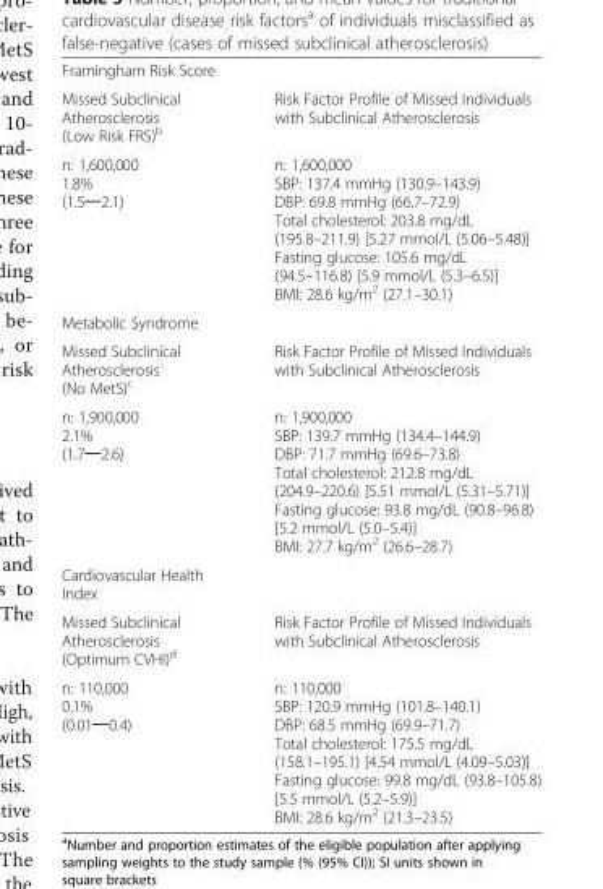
<table><tbody><tr><td colspan="2">Framingham Risk Score</td></tr><tr><td>Missed Subclinical Atherosclerosis (Low Risk FRS)<sup>b</sup></td><td>Risk Factor Profile of Missed Individuals with Subclinical Atherosclerosis</td></tr><tr><td>n: 1,600,000 1.8% (1.5─2.1)</td><td>n: 1,600,000 SBP: 137.4 mmHg (130.9–143.9) DBP: 69.8 mmHg (66.7–72.9) Total cholesterol: 203.8 mg/dL (195.8–211.9) [5.27 mmol/L (5.06–5.48)] Fasting glucose: 105.6 mg/dL (94.5–116.8) [5.9 mmol/L (5.3–6.5)] BMI: 28.6 kg/m<sup>2</sup> (27.1–30.1)</td></tr><tr><td colspan="2">Metabolic Syndrome</td></tr><tr><td>Missed Subclinical Atherosclerosis (No MetS)<sup>c</sup></td><td>Risk Factor Profile of Missed Individuals with Subclinical Atherosclerosis</td></tr><tr><td>n: 1,900,000 2.1% (1.7─2.6)</td><td>n: 1,900,000 SBP: 139.7 mmHg (134.4–144.9) DBP: 71.7 mmHg (69.6–73.8) Total cholesterol: 212.8 mg/dL (204.9–220.6) [5.51 mmol/L (5.31–5.71)] Fasting glucose: 93.8 mg/dL (90.8–96.8) [5.2 mmol/L (5.0–5.4)] BMI: 27.7 kg/m<sup>2</sup> (26.6–28.7)</td></tr><tr><td colspan="2">Cardiovascular Health Index</td></tr><tr><td>Missed Subclinical Atherosclerosis (Optimum CVHI)<sup>d</sup></td><td>Risk Factor Profile of Missed Individuals with Subclinical Atherosclerosis</td></tr><tr><td>n: 110,000 0.1% (0.01─0.4)</td><td>n: 110,000 SBP: 120.9 mmHg (101.8–140.1) DBP: 68.5 mmHg (69.9–71.7) Total cholesterol: 175.5 mg/dL (158.1–195.1) [4.54 mmol/L (4.09–5.03)] Fasting glucose: 99.8 mg/dL (93.8–105.8) [5.5 mmol/L (5.2–5.9)] BMI: 28.6 kg/m<sup>2</sup> (21.3–23.5)</td></tr></tbody></table>